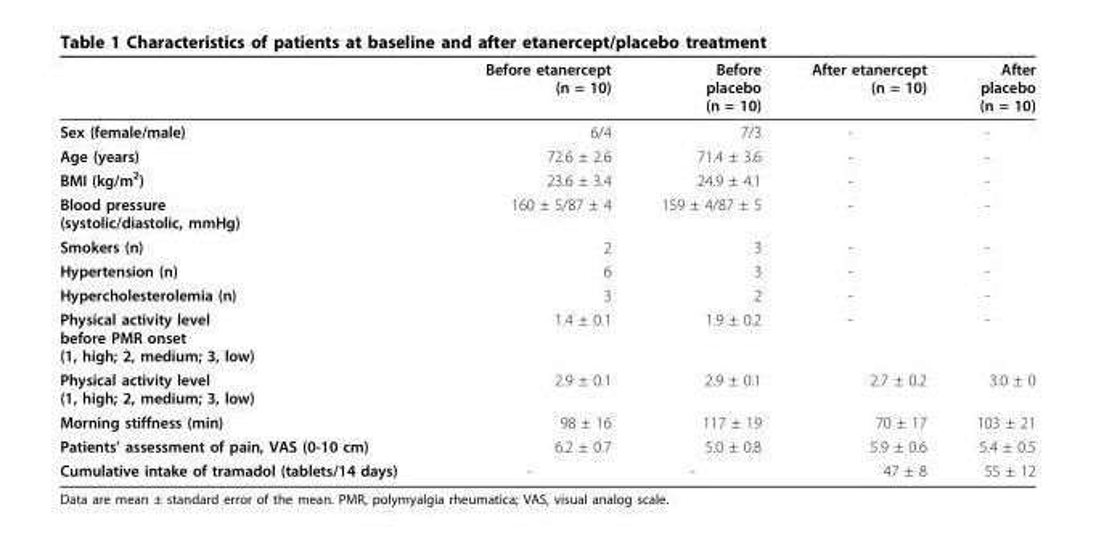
<table><thead><tr><td></td><td>Before etanercept (n = 10)</td><td>Before placebo (n = 10)</td><td>After etanercept (n = 10)</td><td>After placebo (n = 10)</td></tr></thead><tbody><tr><td>Sex (female/male)</td><td>6/4</td><td>7/3</td><td>-</td><td>-</td></tr><tr><td>Age (years)</td><td>72.6 ± 2.6</td><td>71.4 ± 3.6</td><td>-</td><td>-</td></tr><tr><td>BMI (kg/m<sup>2</sup>)</td><td>23.6 ± 3.4</td><td>24.9 ± 4.1</td><td>-</td><td>-</td></tr><tr><td>Blood pressure (systolic/diastolic, mmHg)</td><td>160 ± 5/87 ± 4</td><td>159 ± 4/87 ± 5</td><td>-</td><td>-</td></tr><tr><td>Smokers (n)</td><td>2</td><td>3</td><td>-</td><td>-</td></tr><tr><td>Hypertension (n)</td><td>6</td><td>3</td><td>-</td><td>-</td></tr><tr><td>Hypercholesterolemia (n)</td><td>3</td><td>2</td><td>-</td><td>-</td></tr><tr><td>Physical activity level before PMR onset (1, high; 2, medium; 3, low)</td><td>1.4 ± 0.1</td><td>1.9 ± 0.2</td><td>-</td><td>-</td></tr><tr><td>Physical activity level (1, high; 2, medium; 3, low)</td><td>2.9 ± 0.1</td><td>2.9 ± 0.1</td><td>2.7 ± 0.2</td><td>3.0 ± 0</td></tr><tr><td>Morning stiffness (min)</td><td>98 ± 16</td><td>117 ± 19</td><td>70 ± 17</td><td>103 ± 21</td></tr><tr><td>Patients’ assessment of pain, VAS (0-10 cm)</td><td>6.2 ± 0.7</td><td>5.0 ± 0.8</td><td>5.9 ± 0.6</td><td>5.4 ± 0.5</td></tr><tr><td>Cumulative intake of tramadol (tablets/14 days)</td><td>-</td><td>-</td><td>47 ± 8</td><td>55 ± 12</td></tr></tbody></table>